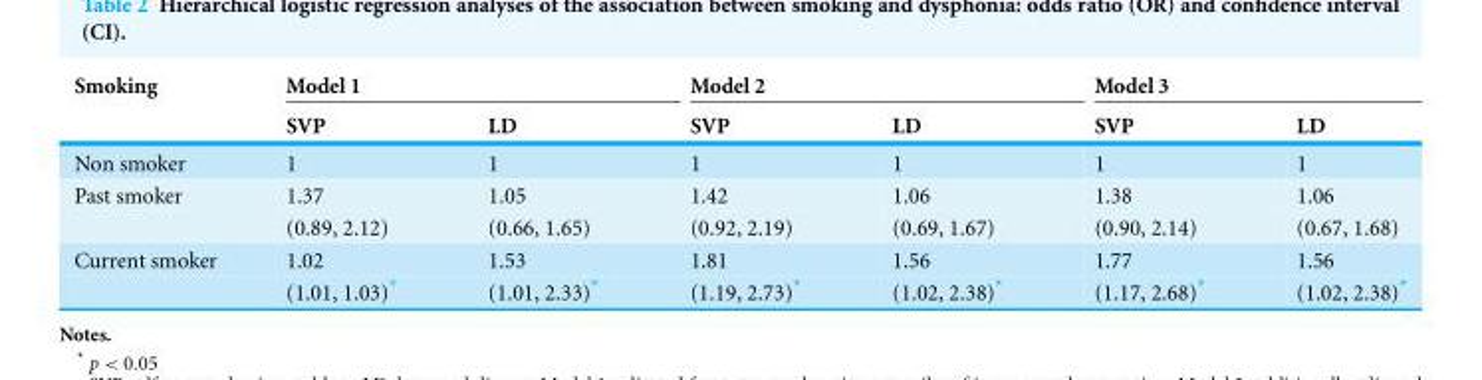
<table><thead><tr><td rowspan="2">Smoking</td><td colspan="2">Model 1</td><td colspan="2">Model 2</td><td colspan="2">Model 3</td></tr><tr><td>SVP</td><td>LD</td><td>SVP</td><td>LD</td><td>SVP</td><td>LD</td></tr></thead><tbody><tr><td>Non smoker</td><td>1</td><td>1</td><td>1</td><td>1</td><td>1</td><td>1</td></tr><tr><td rowspan="2">Past smoker</td><td>1.37</td><td>1.05</td><td>1.42</td><td>1.06</td><td>1.38</td><td>1.06</td></tr><tr><td>(0.89, 2.12)</td><td>(0.66, 1.65)</td><td>(0.92, 2.19)</td><td>(0.69, 1.67)</td><td>(0.90, 2.14)</td><td>(0.67, 1.68)</td></tr><tr><td rowspan="2">Current smoker</td><td>1.02</td><td>1.53</td><td>1.81</td><td>1.56</td><td>1.77</td><td>1.56</td></tr><tr><td>(1.01, 1.03)*</td><td>(1.01, 2.33)*</td><td>(1.19, 2.73)*</td><td>(1.02, 2.38)*</td><td>(1.17, 2.68)*</td><td>(1.02, 2.38)*</td></tr></tbody></table>